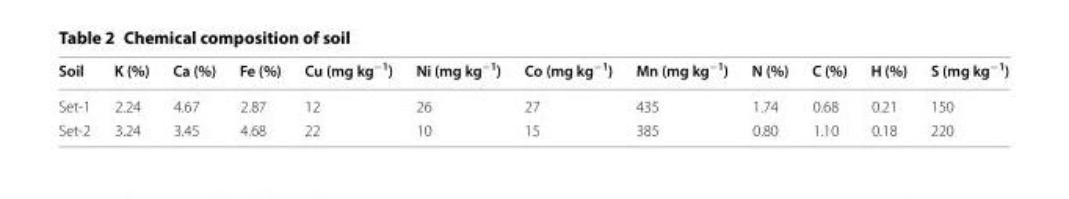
<table><thead><tr><td>Soil</td><td>K (%)</td><td>Ca (%)</td><td>Fe (%)</td><td>Cu (mg kg<sup>−1</sup>)</td><td>Ni (mg kg<sup>−1</sup>)</td><td>Co (mg kg<sup>−1</sup>)</td><td>Mn (mg kg<sup>−1</sup>)</td><td>N (%)</td><td>C (%)</td><td>H (%)</td><td>S (mg kg<sup>−1</sup>)</td></tr></thead><tbody><tr><td>Set-1</td><td>2.24</td><td>4.67</td><td>2.87</td><td>12</td><td>26</td><td>27</td><td>435</td><td>1.74</td><td>0.68</td><td>0.21</td><td>150</td></tr><tr><td>Set-2</td><td>3.24</td><td>3.45</td><td>4.68</td><td>22</td><td>10</td><td>15</td><td>385</td><td>0.80</td><td>1.10</td><td>0.18</td><td>220</td></tr></tbody></table>